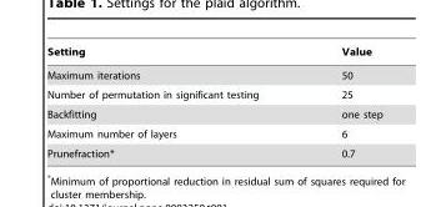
<table><thead><tr><td>Setting</td><td>Value</td></tr></thead><tbody><tr><td>Maximum iterations</td><td>50</td></tr><tr><td>Number of permutation in significant testing</td><td>25</td></tr><tr><td>Backfitting</td><td>one step</td></tr><tr><td>Maximum number of layers</td><td>6</td></tr><tr><td>Prunefraction*</td><td>0.7</td></tr></tbody></table>